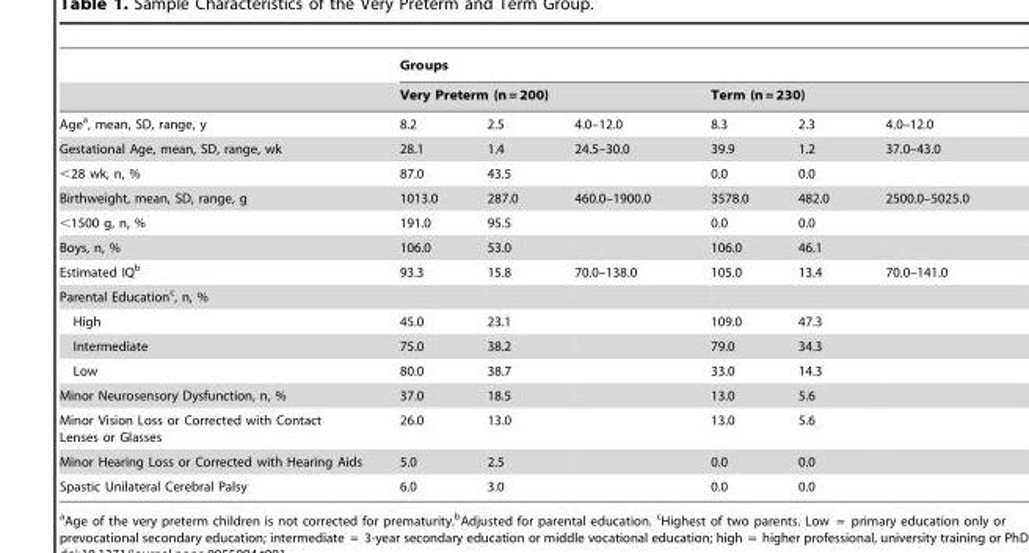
<table><thead><tr><td rowspan="3">Age<sup>a</sup>, mean, SD, range, y</td><td colspan="6">Groups</td></tr><tr><td colspan="3">Very Preterm (n = 200)</td><td colspan="3">Term (n = 230)</td></tr><tr><td>8.2</td><td>2.5</td><td>4.0–12.0</td><td>8.3</td><td>2.3</td><td>4.0–12.0</td></tr></thead><tbody><tr><td>Gestational Age, mean, SD, range, wk</td><td>28.1</td><td>1.4</td><td>24.5–30.0</td><td>39.9</td><td>1.2</td><td>37.0–43.0</td></tr><tr><td>&lt;28 wk, n, %</td><td>87.0</td><td>43.5</td><td></td><td>0.0</td><td>0.0</td><td></td></tr><tr><td>Birthweight, mean, SD, range, g</td><td>1013.0</td><td>287.0</td><td>460.0–1900.0</td><td>3578.0</td><td>482.0</td><td>2500.0–5025.0</td></tr><tr><td>&lt;1500 g, n, %</td><td>191.0</td><td>95.5</td><td></td><td>0.0</td><td>0.0</td><td></td></tr><tr><td>Boys, n, %</td><td>106.0</td><td>53.0</td><td></td><td>106.0</td><td>46.1</td><td></td></tr><tr><td>Estimated IQ<sup>b</sup></td><td>93.3</td><td>15.8</td><td>70.0–138.0</td><td>105.0</td><td>13.4</td><td>70.0–141.0</td></tr><tr><td colspan="7">Parental Education<sup>c</sup>, n, %</td></tr><tr><td>High</td><td>45.0</td><td>23.1</td><td></td><td>109.0</td><td>47.3</td><td></td></tr><tr><td>Intermediate</td><td>75.0</td><td>38.2</td><td></td><td>79.0</td><td>34.3</td><td></td></tr><tr><td>Low</td><td>80.0</td><td>38.7</td><td></td><td>33.0</td><td>14.3</td><td></td></tr><tr><td>Minor Neurosensory Dysfunction, n, %</td><td>37.0</td><td>18.5</td><td></td><td>13.0</td><td>5.6</td><td></td></tr><tr><td>Minor Vision Loss or Corrected with Contact Lenses or Glasses</td><td>26.0</td><td>13.0</td><td></td><td>13.0</td><td>5.6</td><td></td></tr><tr><td>Minor Hearing Loss or Corrected with Hearing Aids</td><td>5.0</td><td>2.5</td><td></td><td>0.0</td><td>0.0</td><td></td></tr><tr><td>Spastic Unilateral Cerebral Palsy</td><td>6.0</td><td>3.0</td><td></td><td>0.0</td><td>0.0</td><td></td></tr></tbody></table>